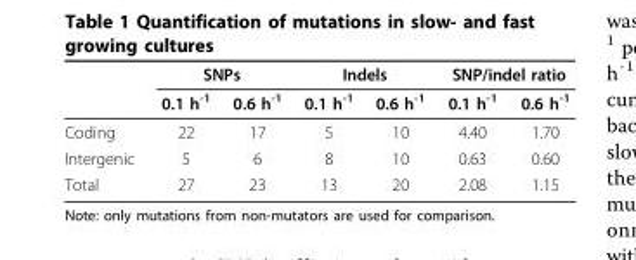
<table><thead><tr><td rowspan="2"></td><td colspan="2">SNPs</td><td colspan="2">Indels</td><td colspan="2">SNP/indel ratio</td></tr><tr><td>0.1 h<sup>-1</sup></td><td>0.6 h<sup>-1</sup></td><td>0.1 h<sup>-1</sup></td><td>0.6 h<sup>-1</sup></td><td>0.1 h<sup>-1</sup></td><td>0.6 h<sup>-1</sup></td></tr></thead><tbody><tr><td>Coding</td><td>22</td><td>17</td><td>5</td><td>10</td><td>4.40</td><td>1.70</td></tr><tr><td>Intergenic</td><td>5</td><td>6</td><td>8</td><td>10</td><td>0.63</td><td>0.60</td></tr><tr><td>Total</td><td>27</td><td>23</td><td>13</td><td>20</td><td>2.08</td><td>1.15</td></tr></tbody></table>